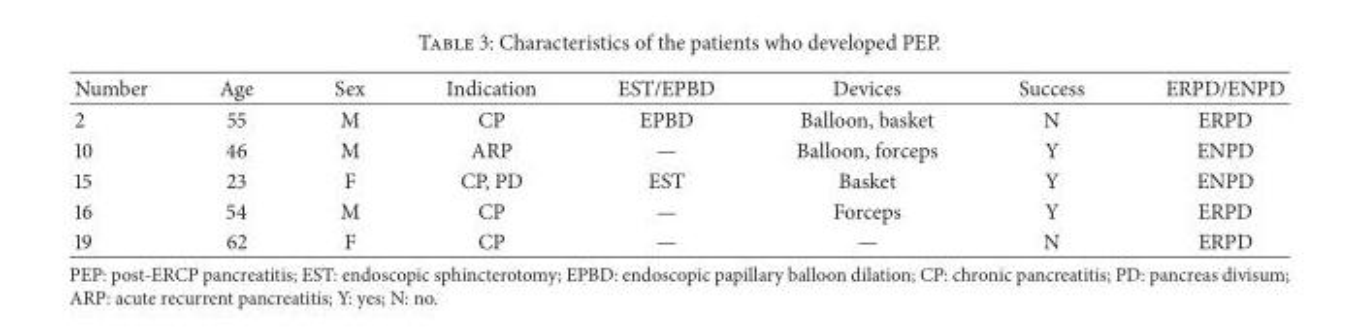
<table><thead><tr><td>Number</td><td>Age</td><td>Sex</td><td>Indication</td><td>EST/EPBD</td><td>Devices</td><td>Success</td><td>ERPD/ENPD</td></tr></thead><tbody><tr><td>2</td><td>55</td><td>M</td><td>CP</td><td>EPBD</td><td>Balloon, basket</td><td>N</td><td>ERPD</td></tr><tr><td>10</td><td>46</td><td>M</td><td>ARP</td><td>—</td><td>Balloon, forceps</td><td>Y</td><td>ENPD</td></tr><tr><td>15</td><td>23</td><td>F</td><td>CP, PD</td><td>EST</td><td>Basket</td><td>Y</td><td>ENPD</td></tr><tr><td>16</td><td>54</td><td>M</td><td>CP</td><td>—</td><td>Forceps</td><td>Y</td><td>ERPD</td></tr><tr><td>19</td><td>62</td><td>F</td><td>CP</td><td>—</td><td>—</td><td>N</td><td>ERPD</td></tr></tbody></table>